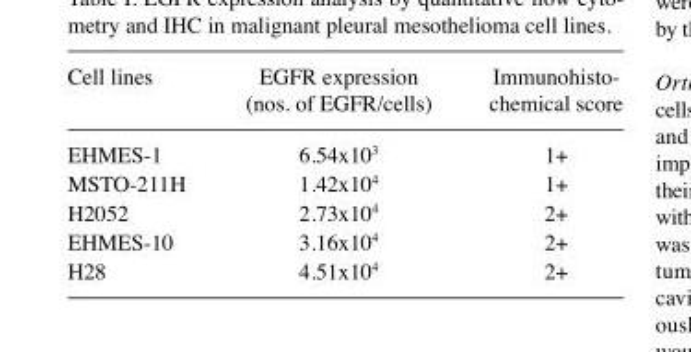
<table><thead><tr><td>Cell lines</td><td>EGFR expression (nos. of EGFR/cells)</td><td>Immunohisto- chemical score</td></tr></thead><tbody><tr><td>EHMES-1</td><td>6.54x103</td><td>1+</td></tr><tr><td>MSTO-211H</td><td>1.42x104</td><td>1+</td></tr><tr><td>H2052</td><td>2.73x104</td><td>2+</td></tr><tr><td>EHMES-10</td><td>3.16x104</td><td>2+</td></tr><tr><td>H28</td><td>4.51x104</td><td>2+</td></tr></tbody></table>